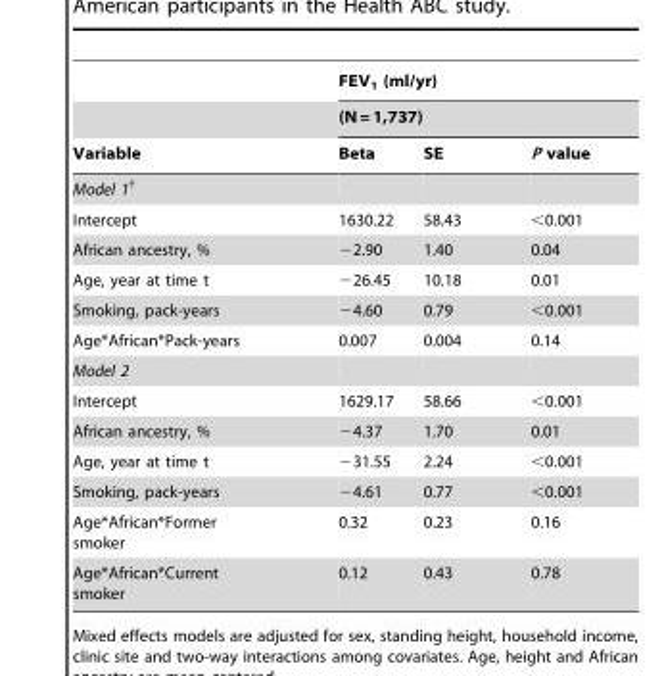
<table><thead><tr><td rowspan="3">Variable</td><td rowspan="2" colspan="3">FEV<sub>1</sub> (ml/yr) (N = 1,737)</td></tr><tr></tr><tr><td>Beta</td><td>SE</td><td>P value</td></tr></thead><tbody><tr><td colspan="4">Model 1†</td></tr><tr><td>Intercept</td><td>1630.22</td><td>58.43</td><td>&lt;0.001</td></tr><tr><td>African ancestry, %</td><td>−2.90</td><td>1.40</td><td>0.04</td></tr><tr><td>Age, year at time t</td><td>−26.45</td><td>10.18</td><td>0.01</td></tr><tr><td>Smoking, pack-years</td><td>−4.60</td><td>0.79</td><td>&lt;0.001</td></tr><tr><td>Age*African*Pack-years</td><td>0.007</td><td>0.004</td><td>0.14</td></tr><tr><td colspan="4">Model 2</td></tr><tr><td>Intercept</td><td>1629.17</td><td>58.66</td><td>&lt;0.001</td></tr><tr><td>African ancestry, %</td><td>−4.37</td><td>1.70</td><td>0.01</td></tr><tr><td>Age, year at time t</td><td>−31.55</td><td>2.24</td><td>&lt;0.001</td></tr><tr><td>Smoking, pack-years</td><td>−4.61</td><td>0.77</td><td>&lt;0.001</td></tr><tr><td>Age*African*Former smoker</td><td>0.32</td><td>0.23</td><td>0.16</td></tr><tr><td>Age*African*Current smoker</td><td>0.12</td><td>0.43</td><td>0.78</td></tr></tbody></table>